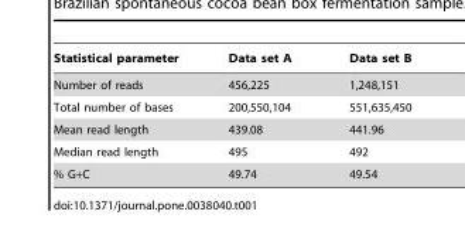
<table><thead><tr><td>Statistical parameter</td><td>Data set A</td><td>Data set B</td></tr></thead><tbody><tr><td>Number of reads</td><td>456,225</td><td>1,248,151</td></tr><tr><td>Total number of bases</td><td>200,550,104</td><td>551,635,450</td></tr><tr><td>Mean read length</td><td>439.08</td><td>441.96</td></tr><tr><td>Median read length</td><td>495</td><td>492</td></tr><tr><td>% G+C</td><td>49.74</td><td>49.54</td></tr></tbody></table>